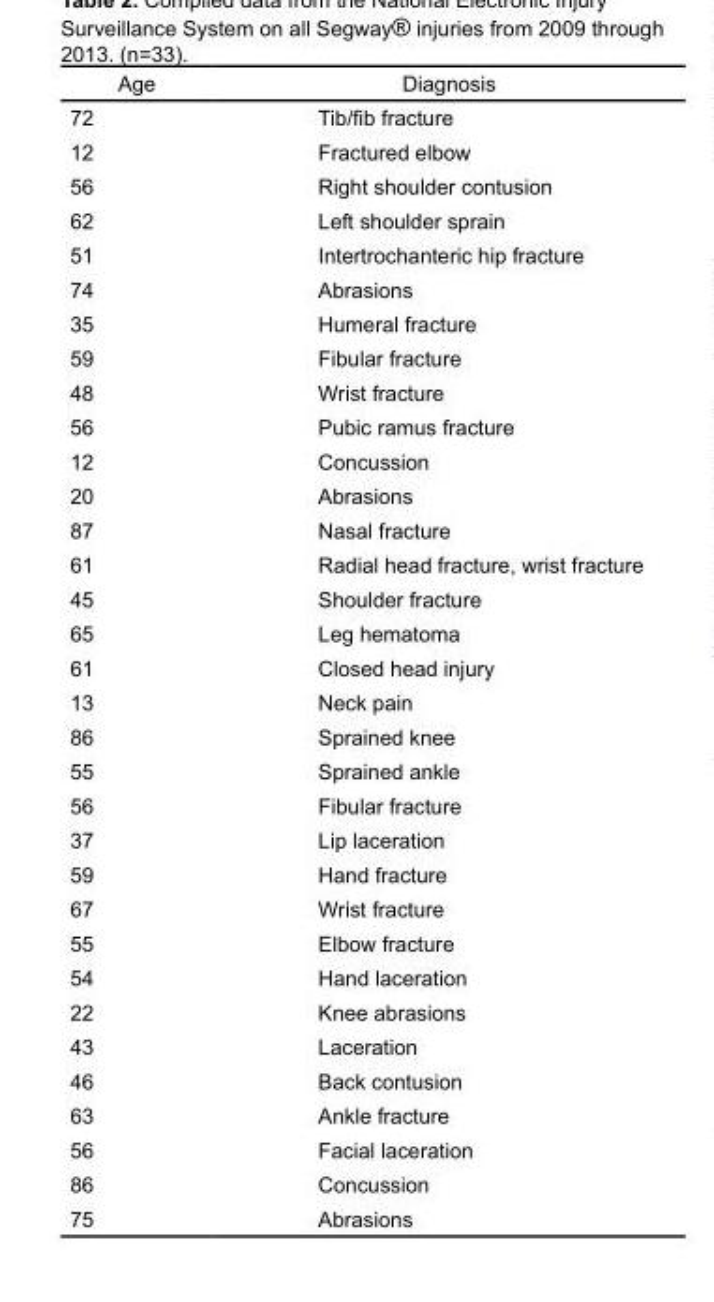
<table><thead><tr><td>Age</td><td>Diagnosis</td></tr></thead><tbody><tr><td>72</td><td>Tib/fib fracture</td></tr><tr><td>12</td><td>Fractured elbow</td></tr><tr><td>56</td><td>Right shoulder contusion</td></tr><tr><td>62</td><td>Left shoulder sprain</td></tr><tr><td>51</td><td>Intertrochanteric hip fracture</td></tr><tr><td>74</td><td>Abrasions</td></tr><tr><td>35</td><td>Humeral fracture</td></tr><tr><td>59</td><td>Fibular fracture</td></tr><tr><td>48</td><td>Wrist fracture</td></tr><tr><td>56</td><td>Pubic ramus fracture</td></tr><tr><td>12</td><td>Concussion</td></tr><tr><td>20</td><td>Abrasions</td></tr><tr><td>87</td><td>Nasal fracture</td></tr><tr><td>61</td><td>Radial head fracture, wrist fracture</td></tr><tr><td>45</td><td>Shoulder fracture</td></tr><tr><td>65</td><td>Leg hematoma</td></tr><tr><td>61</td><td>Closed head injury</td></tr><tr><td>13</td><td>Neck pain</td></tr><tr><td>86</td><td>Sprained knee</td></tr><tr><td>55</td><td>Sprained ankle</td></tr><tr><td>56</td><td>Fibular fracture</td></tr><tr><td>37</td><td>Lip laceration</td></tr><tr><td>59</td><td>Hand fracture</td></tr><tr><td>67</td><td>Wrist fracture</td></tr><tr><td>55</td><td>Elbow fracture</td></tr><tr><td>54</td><td>Hand laceration</td></tr><tr><td>22</td><td>Knee abrasions</td></tr><tr><td>43</td><td>Laceration</td></tr><tr><td>46</td><td>Back contusion</td></tr><tr><td>63</td><td>Ankle fracture</td></tr><tr><td>56</td><td>Facial laceration</td></tr><tr><td>86</td><td>Concussion</td></tr><tr><td>75</td><td>Abrasions</td></tr></tbody></table>